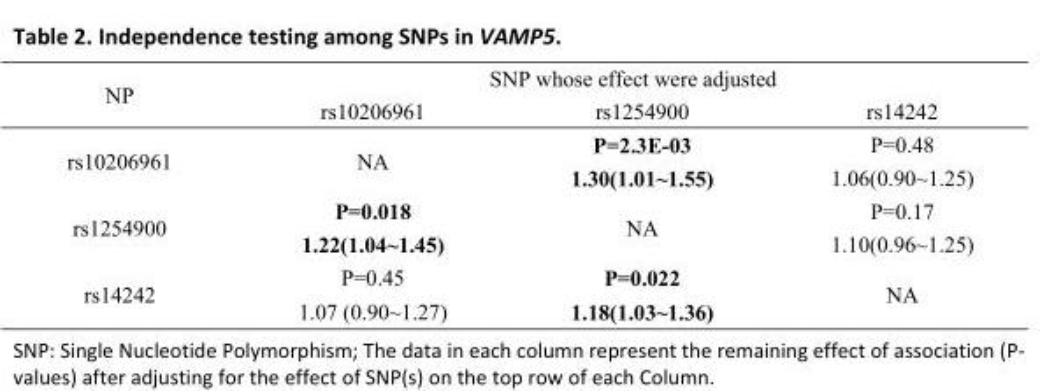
<table><tbody><tr><td rowspan="2">NP</td><td colspan="3">SNP whose effect were adjusted</td></tr><tr><td>rs10206961</td><td>rs1254900</td><td>rs14242</td></tr><tr><td rowspan="2">rs10206961</td><td rowspan="2">NA</td><td>P=2.3E-03</td><td>P=0.48</td></tr><tr><td>1.30(1.01~1.55)</td><td>1.06(0.90~1.25)</td></tr><tr><td rowspan="2">rs1254900</td><td>P=0.018</td><td rowspan="2">NA</td><td>P=0.17</td></tr><tr><td>1.22(1.04~1.45)</td><td>1.10(0.96~1.25)</td></tr><tr><td rowspan="2">rs14242</td><td>P=0.45</td><td>P=0.022</td><td rowspan="2">NA</td></tr><tr><td>1.07 (0.90~1.27)</td><td>1.18(1.03~1.36)</td></tr></tbody></table>